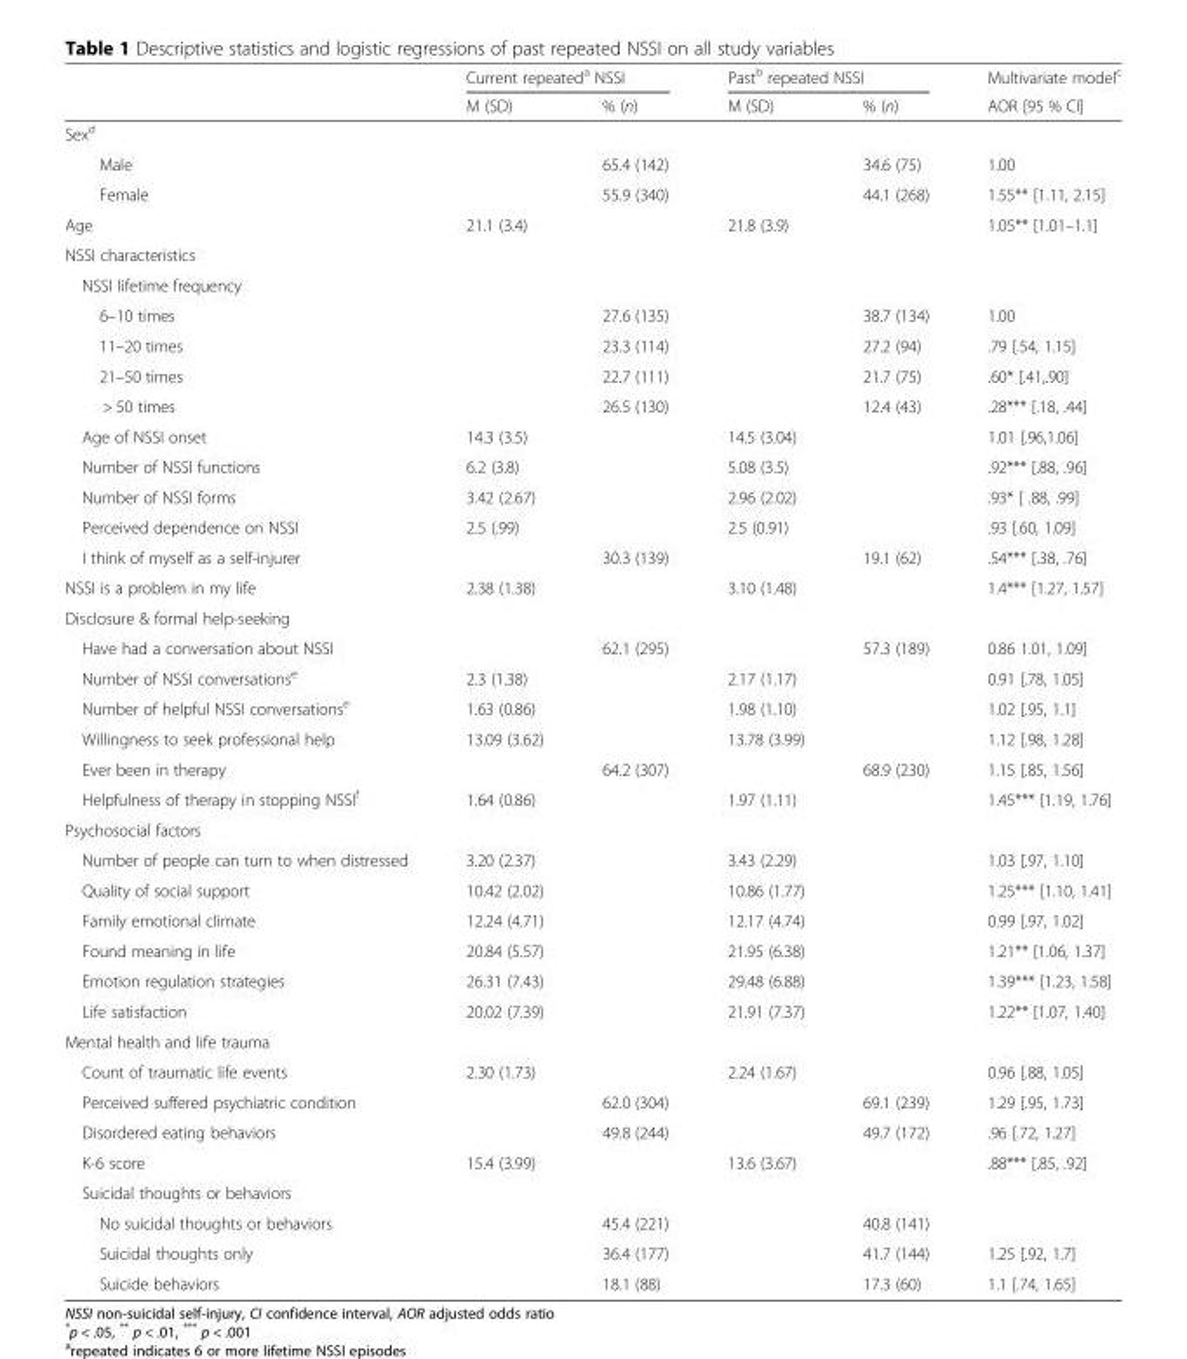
<table><thead><tr><td rowspan="2"></td><td colspan="2">Current repeated<sup>a</sup> NSSI</td><td colspan="2">Past<sup>b</sup> repeated NSSI</td><td rowspan="2">Multivariate model<sup>c</sup> AOR [95 % CI]</td></tr><tr><td>M (SD)</td><td>% (n)</td><td>M (SD)</td><td>% (n)</td></tr></thead><tbody><tr><td colspan="6">Sex<sup>d</sup></td></tr><tr><td>Male</td><td></td><td>65.4 (142)</td><td></td><td>34.6 (75)</td><td>1.00</td></tr><tr><td>Female</td><td></td><td>55.9 (340)</td><td></td><td>44.1 (268)</td><td>1.55** [1.11, 2.15]</td></tr><tr><td>Age</td><td>21.1 (3.4)</td><td></td><td>21.8 (3.9)</td><td></td><td>1.05** [1.01–1.1]</td></tr><tr><td colspan="6">NSSI characteristics</td></tr><tr><td colspan="6">NSSI lifetime frequency</td></tr><tr><td>6–10 times</td><td></td><td>27.6 (135)</td><td></td><td>38.7 (134)</td><td>1.00</td></tr><tr><td>11–20 times</td><td></td><td>23.3 (114)</td><td></td><td>27.2 (94)</td><td>.79 [.54, 1.15]</td></tr><tr><td>21–50 times</td><td></td><td>22.7 (111)</td><td></td><td>21.7 (75)</td><td>.60* [.41,.90]</td></tr><tr><td>&gt; 50 times</td><td></td><td>26.5 (130)</td><td></td><td>12.4 (43)</td><td>.28*** [.18, .44]</td></tr><tr><td>Age of NSSI onset</td><td>14.3 (3.5)</td><td></td><td>14.5 (3.04)</td><td></td><td>1.01 [.96,1.06]</td></tr><tr><td>Number of NSSI functions</td><td>6.2 (3.8)</td><td></td><td>5.08 (3.5)</td><td></td><td>.92*** [.88, .96]</td></tr><tr><td>Number of NSSI forms</td><td>3.42 (2.67)</td><td></td><td>2.96 (2.02)</td><td></td><td>.93* [ .88, .99]</td></tr><tr><td>Perceived dependence on NSSI</td><td>2.5 (.99)</td><td></td><td>2.5 (0.91)</td><td></td><td>.93 [.60, 1.09]</td></tr><tr><td>I think of myself as a self-injurer</td><td></td><td>30.3 (139)</td><td></td><td>19.1 (62)</td><td>.54*** [.38, .76]</td></tr><tr><td>NSSI is a problem in my life</td><td>2.38 (1.38)</td><td></td><td>3.10 (1.48)</td><td></td><td>1.4*** [1.27, 1.57]</td></tr><tr><td colspan="6">Disclosure &amp; formal help-seeking</td></tr><tr><td>Have had a conversation about NSSI</td><td></td><td>62.1 (295)</td><td></td><td>57.3 (189)</td><td>0.86 1.01, 1.09]</td></tr><tr><td>Number of NSSI conversations<sup>e</sup></td><td>2.3 (1.38)</td><td></td><td>2.17 (1.17)</td><td></td><td>0.91 [.78, 1.05]</td></tr><tr><td>Number of helpful NSSI conversations<sup>e</sup></td><td>1.63 (0.86)</td><td></td><td>1.98 (1.10)</td><td></td><td>1.02 [.95, 1.1]</td></tr><tr><td>Willingness to seek professional help</td><td>13.09 (3.62)</td><td></td><td>13.78 (3.99)</td><td></td><td>1.12 [.98, 1.28]</td></tr><tr><td>Ever been in therapy</td><td></td><td>64.2 (307)</td><td></td><td>68.9 (230)</td><td>1.15 [.85, 1.56]</td></tr><tr><td>Helpfulness of therapy in stopping NSSI<sup>f</sup></td><td>1.64 (0.86)</td><td></td><td>1.97 (1.11)</td><td></td><td>1.45*** [1.19, 1.76]</td></tr><tr><td colspan="6">Psychosocial factors</td></tr><tr><td>Number of people can turn to when distressed</td><td>3.20 (2.37)</td><td></td><td>3.43 (2.29)</td><td></td><td>1.03 [.97, 1.10]</td></tr><tr><td>Quality of social support</td><td>10.42 (2.02)</td><td></td><td>10.86 (1.77)</td><td></td><td>1.25*** [1.10, 1.41]</td></tr><tr><td>Family emotional climate</td><td>12.24 (4.71)</td><td></td><td>12.17 (4.74)</td><td></td><td>0.99 [.97, 1.02]</td></tr><tr><td>Found meaning in life</td><td>20.84 (5.57)</td><td></td><td>21.95 (6.38)</td><td></td><td>1.21** [1.06, 1.37]</td></tr><tr><td>Emotion regulation strategies</td><td>26.31 (7.43)</td><td></td><td>29.48 (6.88)</td><td></td><td>1.39*** [1.23, 1.58]</td></tr><tr><td>Life satisfaction</td><td>20.02 (7.39)</td><td></td><td>21.91 (7.37)</td><td></td><td>1.22** [1.07, 1.40]</td></tr><tr><td colspan="6">Mental health and life trauma</td></tr><tr><td>Count of traumatic life events</td><td>2.30 (1.73)</td><td></td><td>2.24 (1.67)</td><td></td><td>0.96 [.88, 1.05]</td></tr><tr><td>Perceived suffered psychiatric condition</td><td></td><td>62.0 (304)</td><td></td><td>69.1 (239)</td><td>1.29 [.95, 1.73]</td></tr><tr><td>Disordered eating behaviors</td><td></td><td>49.8 (244)</td><td></td><td>49.7 (172)</td><td>.96 [.72, 1.27]</td></tr><tr><td>K-6 score</td><td>15.4 (3.99)</td><td></td><td>13.6 (3.67)</td><td></td><td>.88*** [.85, .92]</td></tr><tr><td colspan="6">Suicidal thoughts or behaviors</td></tr><tr><td>No suicidal thoughts or behaviors</td><td></td><td>45.4 (221)</td><td></td><td>40.8 (141)</td><td></td></tr><tr><td>Suicidal thoughts only</td><td></td><td>36.4 (177)</td><td></td><td>41.7 (144)</td><td>1.25 [.92, 1.7]</td></tr><tr><td>Suicide behaviors</td><td></td><td>18.1 (88)</td><td></td><td>17.3 (60)</td><td>1.1 [.74, 1.65]</td></tr></tbody></table>